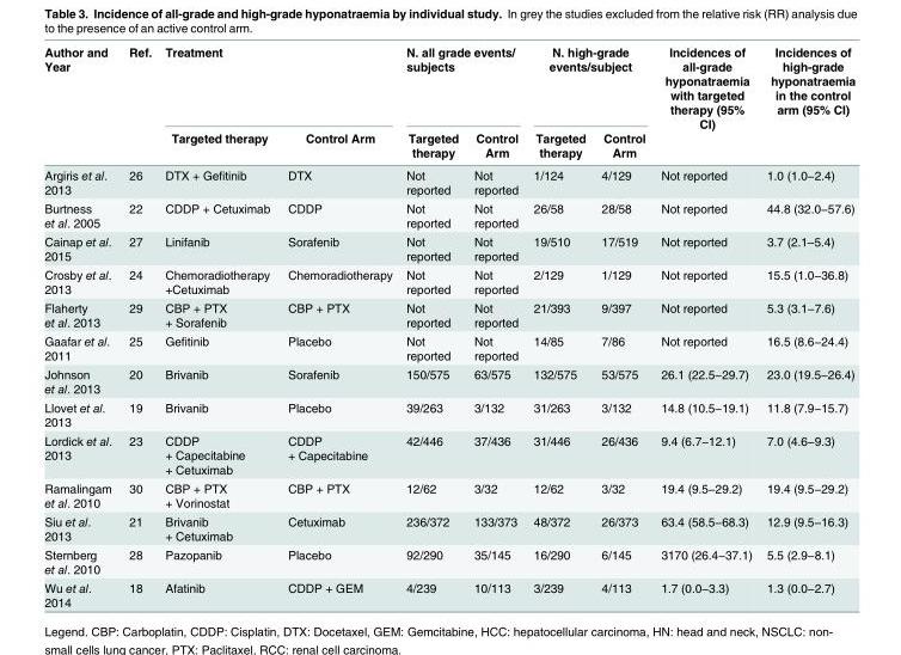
<table><thead><tr><td rowspan="2">Author and Year</td><td rowspan="2">Ref.</td><td colspan="2">Treatment</td><td colspan="2">N. all grade events/ subjects</td><td colspan="2">N. high-grade events/subject</td><td rowspan="2">Incidences of all-grade hyponatraemia with targeted therapy (95% CI)</td><td rowspan="2">Incidences of high-grade hyponatraemia in the control arm (95% CI)</td></tr><tr><td>Targeted therapy</td><td>Control Arm</td><td>Targeted therapy</td><td>Control Arm</td><td>Targeted therapy</td><td>Control Arm</td></tr></thead><tbody><tr><td>Argiris et al. 2013</td><td>26</td><td>DTX + Gefitinib</td><td>DTX</td><td>Not reported</td><td>Not reported</td><td>1/124</td><td>4/129</td><td>Not reported</td><td>1.0 (1.0−2.4)</td></tr><tr><td>Burtness et al. 2005</td><td>22</td><td>CDDP + Cetuximab</td><td>CDDP</td><td>Not reported</td><td>Not reported</td><td>26/58</td><td>28/58</td><td>Not reported</td><td>44.8 (32.0−57.6)</td></tr><tr><td>Cainap et al. 2015</td><td>27</td><td>Linifanib</td><td>Sorafenib</td><td>Not reported</td><td>Not reported</td><td>19/510</td><td>17/519</td><td>Not reported</td><td>3.7 (2.1–5.4)</td></tr><tr><td>Crosby et al. 2013</td><td>24</td><td>Chemoradiotherapy +Cetuximab</td><td>Chemoradiotherapy</td><td>Not reported</td><td>Not reported</td><td>2/129</td><td>1/129</td><td>Not reported</td><td>15.5 (1.0−36.8)</td></tr><tr><td>Flaherty et al. 2013</td><td>29</td><td>CBP + PTX + Sorafenib</td><td>CBP + PTX</td><td>Not reported</td><td>Not reported</td><td>21/393</td><td>9/397</td><td>Not reported</td><td>5.3 (3.1−7.6)</td></tr><tr><td>Gaafar et al. 2011</td><td>25</td><td>Gefitinib</td><td>Placebo</td><td>Not reported</td><td>Not reported</td><td>14/85</td><td>7/86</td><td>Not reported</td><td>16.5 (8.6−24.4)</td></tr><tr><td>Johnson et al. 2013</td><td>20</td><td>Brivanib</td><td>Sorafenib</td><td>150/575</td><td>63/575</td><td>132/575</td><td>53/575</td><td>26.1 (22.5−29.7)</td><td>23.0 (19.5−26.4)</td></tr><tr><td>Llovet et al. 2013</td><td>19</td><td>Brivanib</td><td>Placebo</td><td>39/263</td><td>3/132</td><td>31/263</td><td>3/132</td><td>14.8 (10.5−19.1)</td><td>11.8 (7.9−15.7)</td></tr><tr><td>Lordick et al. 2013</td><td>23</td><td>CDDP + Capecitabine + Cetuximab</td><td>CDDP + Capecitabine</td><td>42/446</td><td>37/436</td><td>31/446</td><td>26/436</td><td>9.4 (6.7−12.1)</td><td>7.0 (4.6−9.3)</td></tr><tr><td>Ramalingam et al. 2010</td><td>30</td><td>CBP + PTX + Vorinostat</td><td>CBP + PTX</td><td>12/62</td><td>3/32</td><td>12/62</td><td>3/32</td><td>19.4 (9.5−29.2)</td><td>19.4 (9.5−29.2)</td></tr><tr><td>Siu et al. 2013</td><td>21</td><td>Brivanib + Cetuximab</td><td>Cetuximab</td><td>236/372</td><td>133/373</td><td>48/372</td><td>26/373</td><td>63.4 (58.5−68.3)</td><td>12.9 (9.5−16.3)</td></tr><tr><td>Sternberg et al. 2010</td><td>28</td><td>Pazopanib</td><td>Placebo</td><td>92/290</td><td>35/145</td><td>16/290</td><td>6/145</td><td>3170 (26.4−37.1)</td><td>5.5 (2.9−8.1)</td></tr><tr><td>Wu et al. 2014</td><td>18</td><td>Afatinib</td><td>CDDP + GEM</td><td>4/239</td><td>10/113</td><td>3/239</td><td>4/113</td><td>1.7 (0.0−3.3)</td><td>1.3 (0.0−2.7)</td></tr></tbody></table>